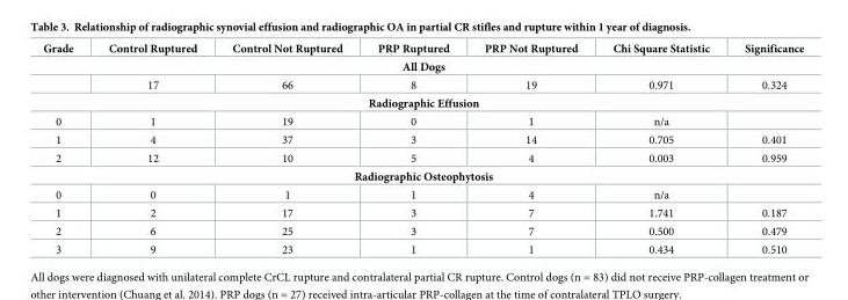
<table><thead><tr><td>Grade</td><td>Control Ruptured</td><td>Control Not Ruptured</td><td>PRP Ruptured</td><td>PRP Not Ruptured</td><td>Chi Square Statistic</td><td>Significance</td></tr></thead><tbody><tr><td colspan="7">All Dogs</td></tr><tr><td></td><td>17</td><td>66</td><td>8</td><td>19</td><td>0.971</td><td>0.324</td></tr><tr><td colspan="7">Radiographic Effusion</td></tr><tr><td>0</td><td>1</td><td>19</td><td>0</td><td>1</td><td>n/a</td><td></td></tr><tr><td>1</td><td>4</td><td>37</td><td>3</td><td>14</td><td>0.705</td><td>0.401</td></tr><tr><td>2</td><td>12</td><td>10</td><td>5</td><td>4</td><td>0.003</td><td>0.959</td></tr><tr><td colspan="7">Radiographic Osteophytosis</td></tr><tr><td>0</td><td>0</td><td>1</td><td>1</td><td>4</td><td>n/a</td><td></td></tr><tr><td>1</td><td>2</td><td>17</td><td>3</td><td>7</td><td>1.741</td><td>0.187</td></tr><tr><td>2</td><td>6</td><td>25</td><td>3</td><td>7</td><td>0.500</td><td>0.479</td></tr><tr><td>3</td><td>9</td><td>23</td><td>1</td><td>1</td><td>0.434</td><td>0.510</td></tr></tbody></table>